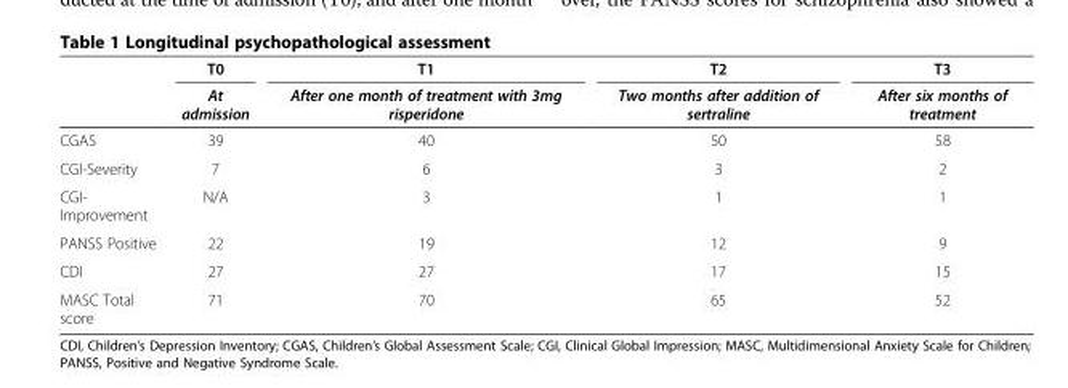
<table><thead><tr><td rowspan="2"></td><td rowspan="2">T0 At admission</td><td rowspan="2">T1 After one month of treatment with 3mg risperidone</td><td rowspan="2">T2 Two months after addition of sertraline</td><td rowspan="2">T3 After six months of treatment</td></tr><tr></tr></thead><tbody><tr><td>CGAS</td><td>39</td><td>40</td><td>50</td><td>58</td></tr><tr><td>CGI-Severity</td><td>7</td><td>6</td><td>3</td><td>2</td></tr><tr><td>CGI- Improvement</td><td>N/A</td><td>3</td><td>1</td><td>1</td></tr><tr><td>PANSS Positive</td><td>22</td><td>19</td><td>12</td><td>9</td></tr><tr><td>CDI</td><td>27</td><td>27</td><td>17</td><td>15</td></tr><tr><td>MASC Total score</td><td>71</td><td>70</td><td>65</td><td>52</td></tr></tbody></table>